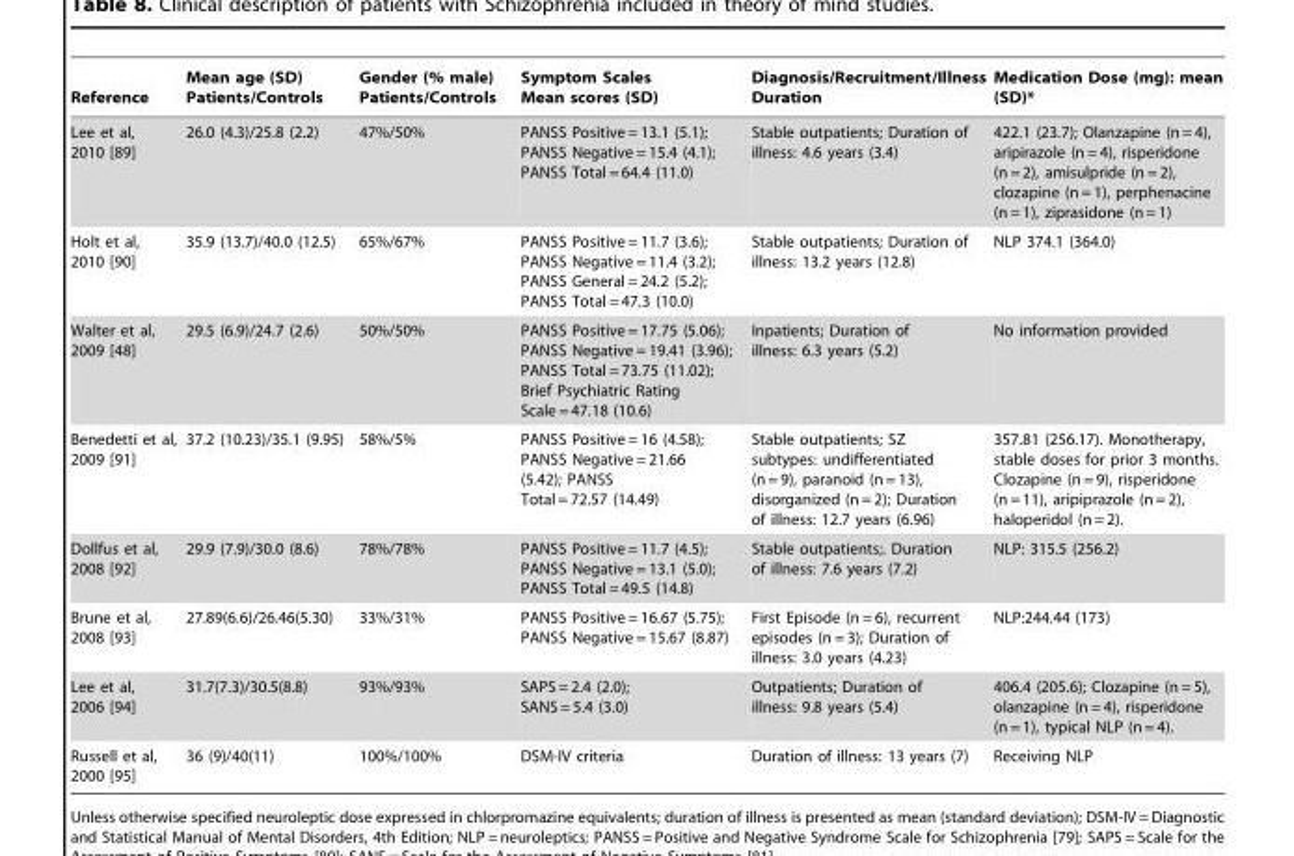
<table><thead><tr><td>Reference</td><td>Mean age (SD) Patients/Controls</td><td>Gender (% male) Patients/Controls</td><td>Symptom Scales Mean scores (SD)</td><td>Diagnosis/Recruitment/Illness Duration</td><td>Medication Dose (mg): mean (SD)*</td></tr></thead><tbody><tr><td>Lee et al, 2010 [89]</td><td>26.0 (4.3)/25.8 (2.2)</td><td>47%/50%</td><td>PANSS Positive = 13.1 (5.1); PANSS Negative = 15.4 (4.1); PANSS Total = 64.4 (11.0)</td><td>Stable outpatients; Duration of illness: 4.6 years (3.4)</td><td>422.1 (23.7); Olanzapine (n = 4), aripirazole (n = 4), risperidone (n = 2), amisulpride (n = 2), clozapine (n = 1), perphenacine (n = 1), ziprasidone (n = 1)</td></tr><tr><td>Holt et al, 2010 [90]</td><td>35.9 (13.7)/40.0 (12.5)</td><td>65%/67%</td><td>PANSS Positive = 11.7 (3.6); PANSS Negative = 11.4 (3.2); PANSS General = 24.2 (5.2); PANSS Total = 47.3 (10.0)</td><td>Stable outpatients; Duration of illness: 13.2 years (12.8)</td><td>NLP 374.1 (364.0)</td></tr><tr><td>Walter et al, 2009 [48]</td><td>29.5 (6.9)/24.7 (2.6)</td><td>50%/50%</td><td>PANSS Positive = 17.75 (5.06); PANSS Negative = 19.41 (3.96); PANSS Total = 73.75 (11.02); Brief Psychiatric Rating Scale = 47.18 (10.6)</td><td>Inpatients; Duration of illness: 6.3 years (5.2)</td><td>No information provided</td></tr><tr><td>Benedetti et al, 2009 [91]</td><td>37.2 (10.23)/35.1 (9.95)</td><td>58%/5%</td><td>PANSS Positive = 16 (4.58); PANSS Negative = 21.66 (5.42); PANSS Total = 72.57 (14.49)</td><td>Stable outpatients; SZ subtypes: undifferentiated (n = 9), paranoid (n = 13), disorganized (n = 2); Duration of illness: 12.7 years (6.96)</td><td>357.81 (256.17). Monotherapy, stable doses for prior 3 months. Clozapine (n = 9), risperidone (n = 11), aripiprazole (n = 2), haloperidol (n = 2).</td></tr><tr><td>Dollfus et al, 2008 [92]</td><td>29.9 (7.9)/30.0 (8.6)</td><td>78%/78%</td><td>PANSS Positive = 11.7 (4.5); PANSS Negative = 13.1 (5.0); PANSS Total = 49.5 (14.8)</td><td>Stable outpatients;. Duration of illness: 7.6 years (7.2)</td><td>NLP: 315.5 (256.2)</td></tr><tr><td>Brune et al, 2008 [93]</td><td>27.89(6.6)/26.46(5.30)</td><td>33%/31%</td><td>PANSS Positive = 16.67 (5.75); PANSS Negative = 15.67 (8.87)</td><td>First Episode (n = 6), recurrent episodes (n = 3); Duration of illness: 3.0 years (4.23)</td><td>NLP:244.44 (173)</td></tr><tr><td>Lee et al, 2006 [94]</td><td>31.7(7.3)/30.5(8.8)</td><td>93%/93%</td><td>SAPS = 2.4 (2.0); SANS = 5.4 (3.0)</td><td>Outpatients; Duration of illness: 9.8 years (5.4)</td><td>406.4 (205.6); Clozapine (n = 5), olanzapine (n = 4), risperidone (n = 1), typical NLP (n = 4).</td></tr><tr><td>Russell et al, 2000 [95]</td><td>36 (9)/40(11)</td><td>100%/100%</td><td>DSM-IV criteria</td><td>Duration of illness: 13 years (7)</td><td>Receiving NLP</td></tr></tbody></table>